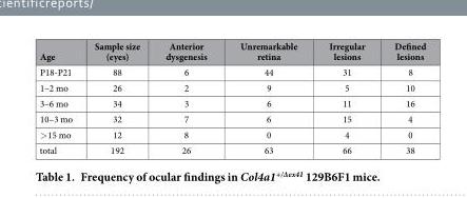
<table><thead><tr><td>Age</td><td>Sample size (eyes)</td><td>Anterior dysgenesis</td><td>Unremarkable retina</td><td>Irregular lesions</td><td>Defined lesions</td></tr></thead><tbody><tr><td>P18-P21</td><td>88</td><td>6</td><td>44</td><td>31</td><td>8</td></tr><tr><td>1–2 mo</td><td>26</td><td>2</td><td>9</td><td>5</td><td>10</td></tr><tr><td>3–6 mo</td><td>34</td><td>3</td><td>6</td><td>11</td><td>16</td></tr><tr><td>10–3 mo</td><td>32</td><td>7</td><td>6</td><td>15</td><td>4</td></tr><tr><td>&gt; 15 mo</td><td>12</td><td>8</td><td>0</td><td>4</td><td>0</td></tr><tr><td>total</td><td>192</td><td>26</td><td>63</td><td>66</td><td>38</td></tr></tbody></table>